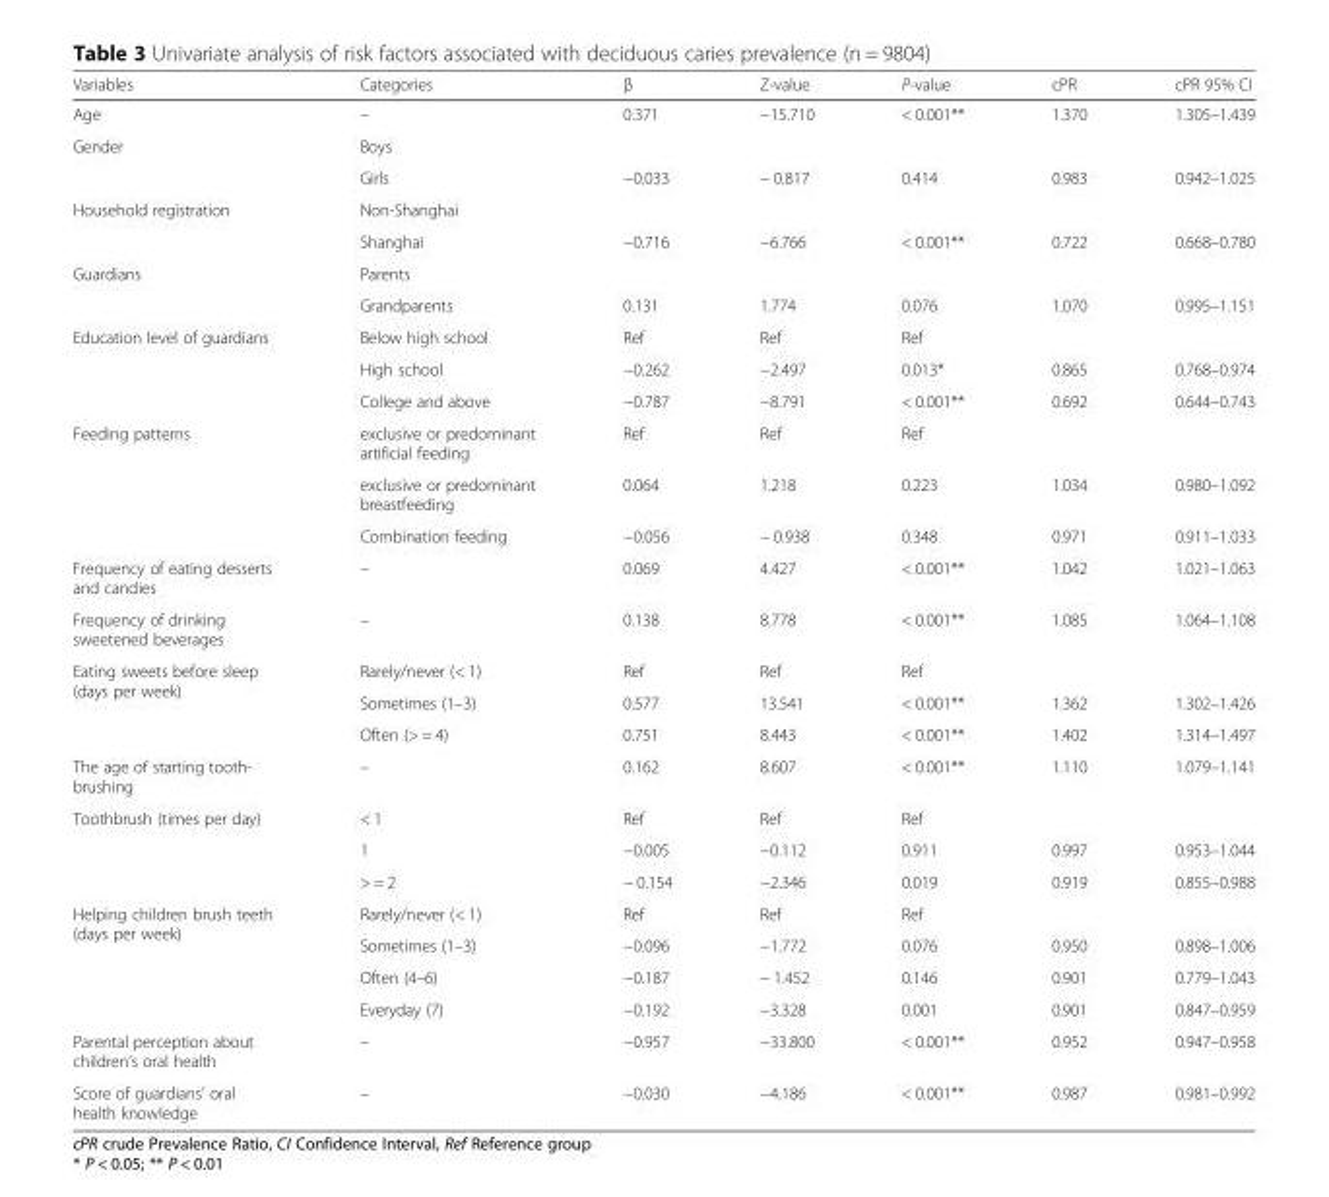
<table><thead><tr><td>Variables</td><td>Categories</td><td>β</td><td>Z-value</td><td>P-value</td><td>cPR</td><td>cPR 95% CI</td></tr></thead><tbody><tr><td>Age</td><td>–</td><td>0.371</td><td>−15.710</td><td>&lt; 0.001**</td><td>1.370</td><td>1.305–1.439</td></tr><tr><td rowspan="2">Gender</td><td>Boys</td><td></td><td></td><td></td><td></td><td></td></tr><tr><td>Girls</td><td>−0.033</td><td>− 0.817</td><td>0.414</td><td>0.983</td><td>0.942–1.025</td></tr><tr><td rowspan="2">Household registration</td><td>Non-Shanghai</td><td></td><td></td><td></td><td></td><td></td></tr><tr><td>Shanghai</td><td>−0.716</td><td>−6.766</td><td>&lt; 0.001**</td><td>0.722</td><td>0.668–0.780</td></tr><tr><td rowspan="2">Guardians</td><td>Parents</td><td></td><td></td><td></td><td></td><td></td></tr><tr><td>Grandparents</td><td>0.131</td><td>1.774</td><td>0.076</td><td>1.070</td><td>0.995–1.151</td></tr><tr><td rowspan="3">Education level of guardians</td><td>Below high school</td><td>Ref</td><td>Ref</td><td>Ref</td><td></td><td></td></tr><tr><td>High school</td><td>−0.262</td><td>−2.497</td><td>0.013*</td><td>0.865</td><td>0.768–0.974</td></tr><tr><td>College and above</td><td>−0.787</td><td>−8.791</td><td>&lt; 0.001**</td><td>0.692</td><td>0.644–0.743</td></tr><tr><td rowspan="3">Feeding patterns</td><td>exclusive or predominant artificial feeding</td><td>Ref</td><td>Ref</td><td>Ref</td><td></td><td></td></tr><tr><td>exclusive or predominant breastfeeding</td><td>0.064</td><td>1.218</td><td>0.223</td><td>1.034</td><td>0.980–1.092</td></tr><tr><td>Combination feeding</td><td>−0.056</td><td>− 0.938</td><td>0.348</td><td>0.971</td><td>0.911–1.033</td></tr><tr><td>Frequency of eating desserts and candies</td><td>–</td><td>0.069</td><td>4.427</td><td>&lt; 0.001**</td><td>1.042</td><td>1.021–1.063</td></tr><tr><td>Frequency of drinking sweetened beverages</td><td>–</td><td>0.138</td><td>8.778</td><td>&lt; 0.001**</td><td>1.085</td><td>1.064–1.108</td></tr><tr><td rowspan="3">Eating sweets before sleep (days per week)</td><td>Rarely/never (&lt; 1)</td><td>Ref</td><td>Ref</td><td>Ref</td><td></td><td></td></tr><tr><td>Sometimes (1–3)</td><td>0.577</td><td>13.541</td><td>&lt; 0.001**</td><td>1.362</td><td>1.302–1.426</td></tr><tr><td>Often (&gt; = 4)</td><td>0.751</td><td>8.443</td><td>&lt; 0.001**</td><td>1.402</td><td>1.314–1.497</td></tr><tr><td>The age of starting tooth- brushing</td><td>–</td><td>0.162</td><td>8.607</td><td>&lt; 0.001**</td><td>1.110</td><td>1.079–1.141</td></tr><tr><td rowspan="3">Toothbrush (times per day)</td><td>&lt; 1</td><td>Ref</td><td>Ref</td><td>Ref</td><td></td><td></td></tr><tr><td>1</td><td>−0.005</td><td>−0.112</td><td>0.911</td><td>0.997</td><td>0.953–1.044</td></tr><tr><td>&gt; = 2</td><td>− 0.154</td><td>−2.346</td><td>0.019</td><td>0.919</td><td>0.855–0.988</td></tr><tr><td rowspan="4">Helping children brush teeth (days per week)</td><td>Rarely/never (&lt; 1)</td><td>Ref</td><td>Ref</td><td>Ref</td><td></td><td></td></tr><tr><td>Sometimes (1–3)</td><td>−0.096</td><td>−1.772</td><td>0.076</td><td>0.950</td><td>0.898–1.006</td></tr><tr><td>Often (4–6)</td><td>−0.187</td><td>− 1.452</td><td>0.146</td><td>0.901</td><td>0.779–1.043</td></tr><tr><td>Everyday (7)</td><td>−0.192</td><td>−3.328</td><td>0.001</td><td>0.901</td><td>0.847–0.959</td></tr><tr><td>Parental perception about children’s oral health</td><td>–</td><td>−0.957</td><td>−33.800</td><td>&lt; 0.001**</td><td>0.952</td><td>0.947–0.958</td></tr><tr><td>Score of guardians’ oral health knowledge</td><td>–</td><td>−0.030</td><td>−4.186</td><td>&lt; 0.001**</td><td>0.987</td><td>0.981–0.992</td></tr></tbody></table>